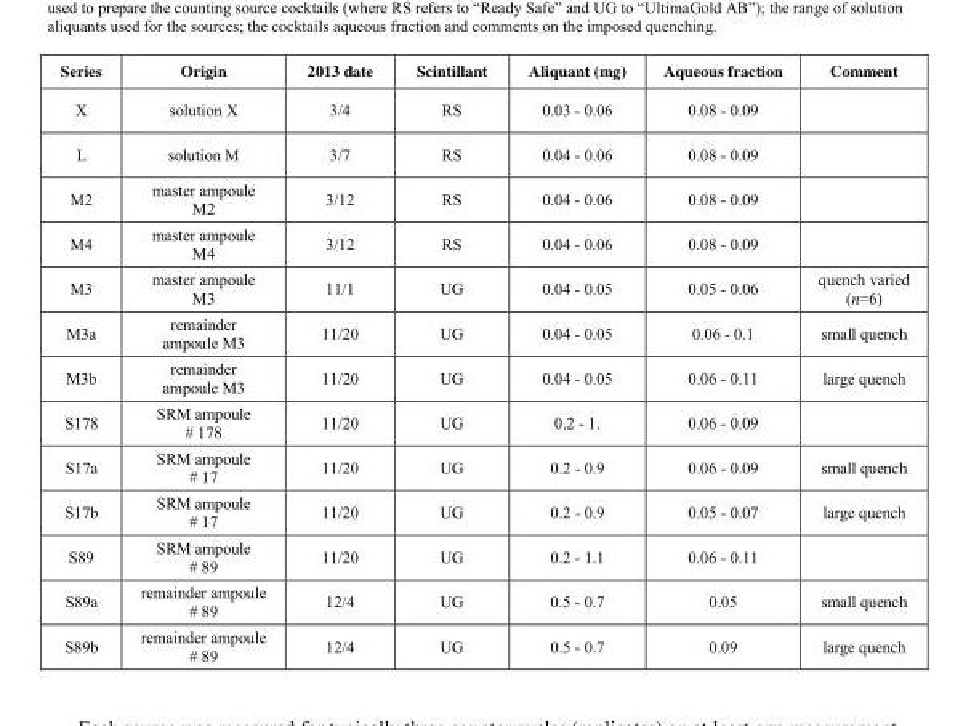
<table><thead><tr><td>Series</td><td>Origin</td><td>2013 date</td><td>Scintillant</td><td>Aliquant (mg)</td><td>Aqueous fraction</td><td>Comment</td></tr></thead><tbody><tr><td>X</td><td>solution X</td><td>3/4</td><td>RS</td><td>0.03 - 0.06</td><td>0.08 - 0.09</td><td></td></tr><tr><td>L</td><td>solution M</td><td>3/7</td><td>RS</td><td>0.04 - 0.06</td><td>0.08 - 0.09</td><td></td></tr><tr><td>M2</td><td>master ampoule M2</td><td>3/12</td><td>RS</td><td>0.04 - 0.06</td><td>0.08 - 0.09</td><td></td></tr><tr><td>M4</td><td>master ampoule M4</td><td>3/12</td><td>RS</td><td>0.04 - 0.06</td><td>0.08 - 0.09</td><td></td></tr><tr><td>M3</td><td>master ampoule M3</td><td>11/1</td><td>UG</td><td>0.04 - 0.05</td><td>0.05 - 0.06</td><td>quench varied (n=6)</td></tr><tr><td>M3a</td><td>remainder ampoule M3</td><td>11/20</td><td>UG</td><td>0.04 - 0.05</td><td>0.06 - 0.1</td><td>small quench</td></tr><tr><td>M3b</td><td>remainder ampoule M3</td><td>11/20</td><td>UG</td><td>0.04 - 0.05</td><td>0.06 - 0.11</td><td>large quench</td></tr><tr><td>S178</td><td>SRM ampoule # 178</td><td>11/20</td><td>UG</td><td>0.2 - 1.</td><td>0.06 - 0.09</td><td></td></tr><tr><td>S17a</td><td>SRM ampoule # 17</td><td>11/20</td><td>UG</td><td>0.2 - 0.9</td><td>0.06 - 0.09</td><td>small quench</td></tr><tr><td>S17b</td><td>SRM ampoule # 17</td><td>11/20</td><td>UG</td><td>0.2 - 0.9</td><td>0.05 - 0.07</td><td>large quench</td></tr><tr><td>S89</td><td>SRM ampoule # 89</td><td>11/20</td><td>UG</td><td>0.2 - 1.1</td><td>0.06 - 0.11</td><td></td></tr><tr><td>S89a</td><td>remainder ampoule # 89</td><td>12/4</td><td>UG</td><td>0.5 - 0.7</td><td>0.05</td><td>small quench</td></tr><tr><td>S89b</td><td>remainder ampoule # 89</td><td>12/4</td><td>UG</td><td>0.5 - 0.7</td><td>0.09</td><td>large quench</td></tr></tbody></table>